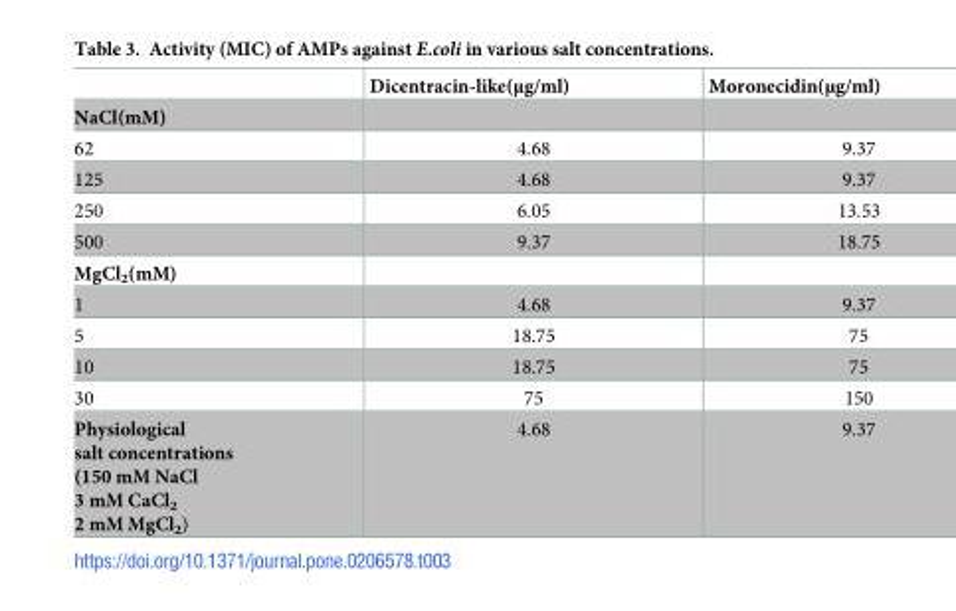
<table><thead><tr><td></td><td>Dicentracin-like(μg/ml)</td><td>Moronecidin(μg/ml)</td></tr></thead><tbody><tr><td colspan="3">NaCl(mM)</td></tr><tr><td>62</td><td>4.68</td><td>9.37</td></tr><tr><td>125</td><td>4.68</td><td>9.37</td></tr><tr><td>250</td><td>6.05</td><td>13.53</td></tr><tr><td>500</td><td>9.37</td><td>18.75</td></tr><tr><td colspan="3">MgCl<sub>2</sub>(mM)</td></tr><tr><td>1</td><td>4.68</td><td>9.37</td></tr><tr><td>5</td><td>18.75</td><td>75</td></tr><tr><td>10</td><td>18.75</td><td>75</td></tr><tr><td>30</td><td>75</td><td>150</td></tr><tr><td>Physiological salt concentrations (150 mM NaCl 3 mM CaCl<sub>2</sub> 2 mM MgCl<sub>2</sub>)</td><td>4.68</td><td>9.37</td></tr></tbody></table>